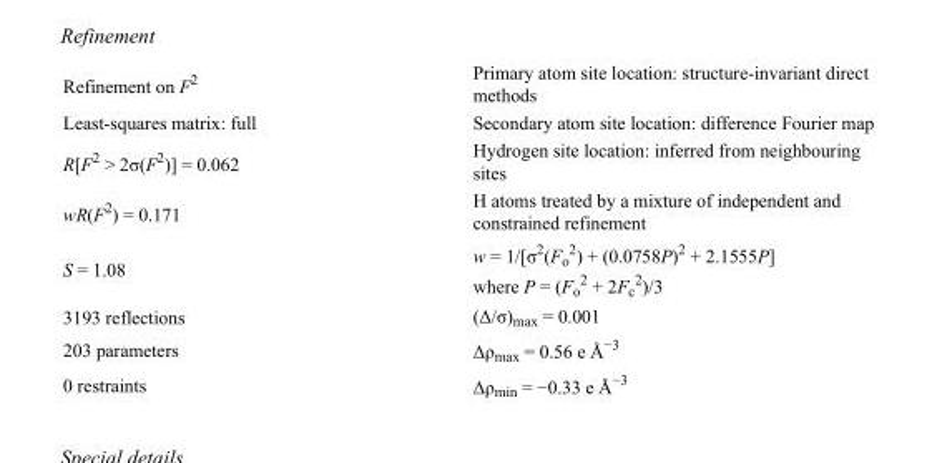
<table><tbody><tr><td>Refinement on F<sup>2</sup></td><td>Primary atom site location: structure-invariant direct methods</td></tr><tr><td>Least-squares matrix: full</td><td>Secondary atom site location: difference Fourier map</td></tr><tr><td>R[F<sup>2</sup> &gt; 2σ(F<sup>2</sup>)] = 0.062</td><td>Hydrogen site location: inferred from neighbouring sites</td></tr><tr><td>wR(F<sup>2</sup>) = 0.171</td><td>H atoms treated by a mixture of independent and constrained refinement</td></tr><tr><td>S = 1.08</td><td>w = 1/[σ<sup>2</sup>(F<sub>o</sub> <sup>2</sup>) + (0.0758P)<sup>2</sup> + 2.1555P] where P = (F<sub>o</sub> <sup>2</sup> + 2F<sub>c</sub> <sup>2</sup>)/3</td></tr><tr><td>3193 reflections</td><td>(Δ/σ)<sub>max</sub> = 0.001</td></tr><tr><td>203 parameters</td><td>Δρ<sub>max</sub> = 0.56 e Å<sup>−3</sup></td></tr><tr><td>0 restraints</td><td>Δρ<sub>min</sub> = −0.33 e Å<sup>−3</sup></td></tr></tbody></table>